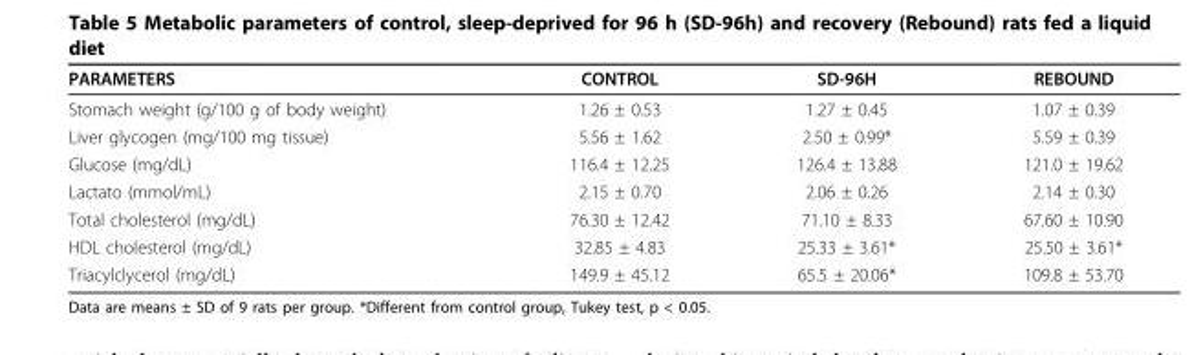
<table><thead><tr><td>PARAMETERS</td><td>CONTROL</td><td>SD-96H</td><td>REBOUND</td></tr></thead><tbody><tr><td>Stomach weight (g/100 g of body weight)</td><td>1.26 ± 0.53</td><td>1.27 ± 0.45</td><td>1.07 ± 0.39</td></tr><tr><td>Liver glycogen (mg/100 mg tissue)</td><td>5.56 ± 1.62</td><td>2.50 ± 0.99*</td><td>5.59 ± 0.39</td></tr><tr><td>Glucose (mg/dL)</td><td>116.4 ± 12.25</td><td>126.4 ± 13.88</td><td>121.0 ± 19.62</td></tr><tr><td>Lactato (mmol/mL)</td><td>2.15 ± 0.70</td><td>2.06 ± 0.26</td><td>2.14 ± 0.30</td></tr><tr><td>Total cholesterol (mg/dL)</td><td>76.30 ± 12.42</td><td>71.10 ± 8.33</td><td>67.60 ± 10.90</td></tr><tr><td>HDL cholesterol (mg/dL)</td><td>32.85 ± 4.83</td><td>25.33 ± 3.61*</td><td>25.50 ± 3.61*</td></tr><tr><td>Triacylclycerol (mg/dL)</td><td>149.9 ± 45.12</td><td>65.5 ± 20.06*</td><td>109.8 ± 53.70</td></tr></tbody></table>